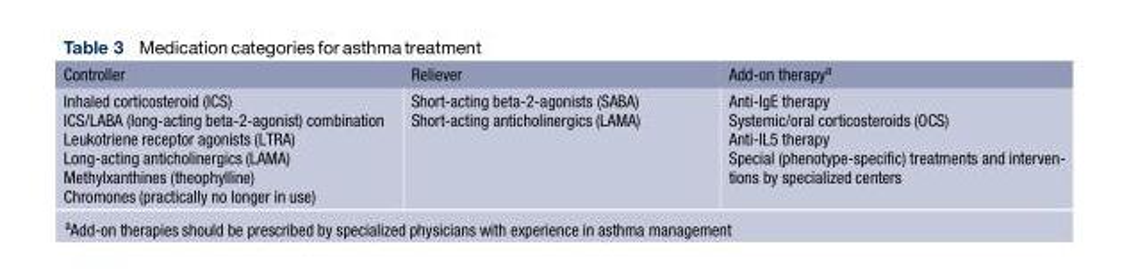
<table><thead><tr><td>Controller</td><td>Reliever</td><td>Add-on therapy<sup>a</sup></td></tr></thead><tbody><tr><td>Inhaled corticosteroid (ICS) ICS/LABA (long-acting beta-2-agonist) combination Leukotriene receptor agonists (LTRA) Long-acting anticholinergics (LAMA) Methylxanthines (theophylline) Chromones (practically no longer in use)</td><td>Short-acting beta-2-agonists (SABA) Short-acting anticholinergics (LAMA)</td><td>Anti-IgE therapy Systemic/oral corticosteroids (OCS) Anti-IL5 therapy Special (phenotype-specific) treatments and interven- tions by specialized centers</td></tr></tbody></table>